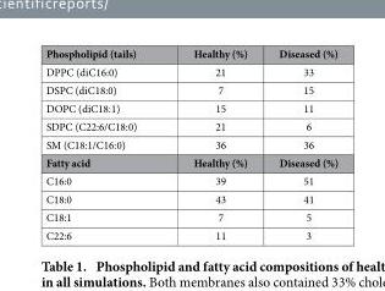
<table><thead><tr><td>Phospholipid (tails)</td><td>Healthy (%)</td><td>Diseased (%)</td></tr></thead><tbody><tr><td>DPPC (diC16:0)</td><td>21</td><td>33</td></tr><tr><td>DSPC (diC18:0)</td><td>7</td><td>15</td></tr><tr><td>DOPC (diC18:1)</td><td>15</td><td>11</td></tr><tr><td>SDPC (C22:6/C18:0)</td><td>21</td><td>6</td></tr><tr><td>SM (C18:1/C16:0)</td><td>36</td><td>36</td></tr><tr><td>Fatty acid</td><td>Healthy (%)</td><td>Diseased (%)</td></tr><tr><td>C16:0</td><td>39</td><td>51</td></tr><tr><td>C18:0</td><td>43</td><td>41</td></tr><tr><td>C18:1</td><td>7</td><td>5</td></tr><tr><td>C22:6</td><td>11</td><td>3</td></tr></tbody></table>